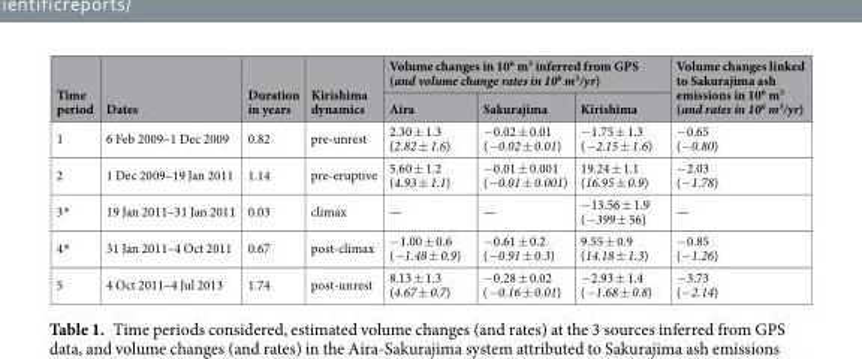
<table><thead><tr><td rowspan="2">Time period</td><td rowspan="2">Dates</td><td rowspan="2">Duration in years</td><td rowspan="2">Kirishima dynamics</td><td colspan="3">Volume changes in 10<sup>6</sup> m<sup>3</sup> inferred from GPS (and volume change rates in 10<sup>6</sup> m<sup>3</sup>/yr)</td><td rowspan="2">Volume changes linked to Sakurajima ash emissions in 10<sup>6</sup> m<sup>3</sup> (and rates in 10<sup>6</sup> m<sup>3</sup>/yr)</td></tr><tr><td>Aira</td><td>Sakurajima</td><td>Kirishima</td></tr></thead><tbody><tr><td>1</td><td>6 Feb 2009–1 Dec 2009</td><td>0.82</td><td>pre-unrest</td><td>2.30 ± 1.3 (2.82 ± 1.6)</td><td>−0.02 ± 0.01 (−0.02 ± 0.01)</td><td>−1.75 ± 1.3 (−2.15 ± 1.6)</td><td>−0.65 (−0.80)</td></tr><tr><td>2</td><td>1 Dec 2009–19 Jan 2011</td><td>1.14</td><td>pre-eruptive</td><td>5.60 ± 1.2 (4.93 ± 1.1)</td><td>−0.01 ± 0.001 (−0.01 ± 0.001)</td><td>19.24 ± 1.1 (16.95 ± 0.9)</td><td>−2.03 (−1.78)</td></tr><tr><td>3*</td><td>19 Jan 2011–31 Jan 2011</td><td>0.03</td><td>climax</td><td>—</td><td>—</td><td>−13.56 ± 1.9 (−399 ± 56)</td><td>—</td></tr><tr><td>4*</td><td>31 Jan 2011–4 Oct 2011</td><td>0.67</td><td>post-climax</td><td>−1.00 ± 0.6 (−1.48 ± 0.9)</td><td>−0.61 ± 0.2 (−0.91 ± 0.3)</td><td>9.55 ± 0.9 (14.18 ± 1.3)</td><td>−0.85 (−1.26)</td></tr><tr><td>5</td><td>4 Oct 2011–4 Jul 2013</td><td>1.74</td><td>post-unrest</td><td>8.13 ± 1.3 (4.67 ± 0.7)</td><td>−0.28 ± 0.02 (−0.16 ± 0.01)</td><td>−2.93 ± 1.4 (−1.68 ± 0.8)</td><td>−3.73 (−2.14)</td></tr></tbody></table>